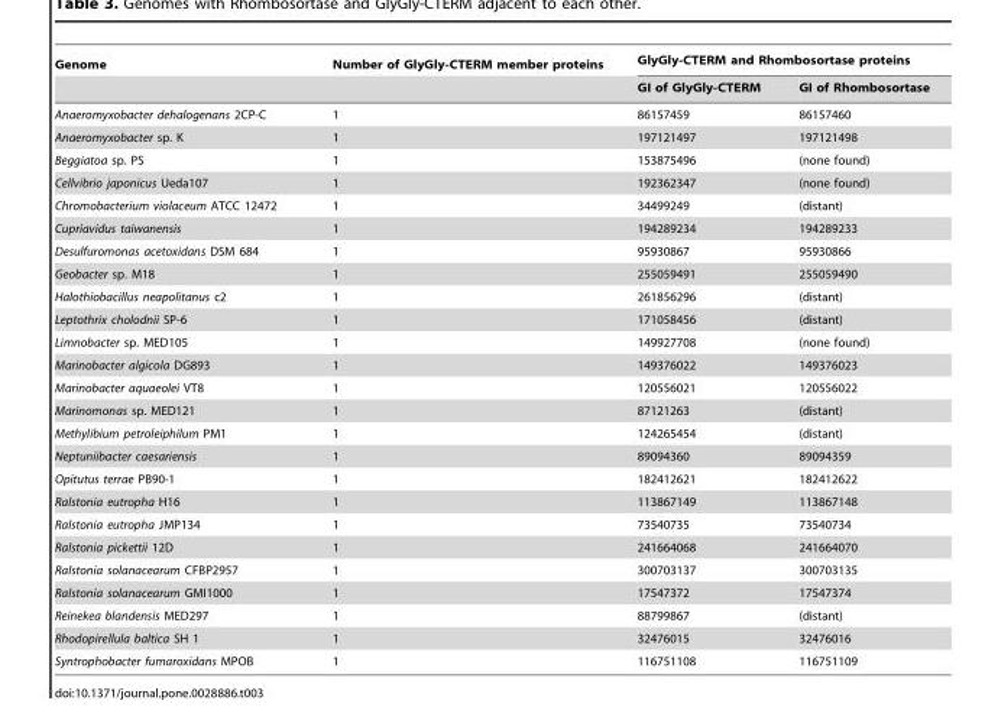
<table><thead><tr><td rowspan="2">Genome</td><td rowspan="2">Number of GlyGly-CTERM member proteins</td><td colspan="2">GlyGly-CTERM and Rhombosortase proteins</td></tr><tr><td>GI of GlyGly-CTERM</td><td>GI of Rhombosortase</td></tr></thead><tbody><tr><td>Anaeromyxobacter dehalogenans 2CP-C</td><td>1</td><td>86157459</td><td>86157460</td></tr><tr><td>Anaeromyxobacter sp. K</td><td>1</td><td>197121497</td><td>197121498</td></tr><tr><td>Beggiatoa sp. PS</td><td>1</td><td>153875496</td><td>(none found)</td></tr><tr><td>Cellvibrio japonicus Ueda107</td><td>1</td><td>192362347</td><td>(none found)</td></tr><tr><td>Chromobacterium violaceum ATCC 12472</td><td>1</td><td>34499249</td><td>(distant)</td></tr><tr><td>Cupriavidus taiwanensis</td><td>1</td><td>194289234</td><td>194289233</td></tr><tr><td>Desulfuromonas acetoxidans DSM 684</td><td>1</td><td>95930867</td><td>95930866</td></tr><tr><td>Geobacter sp. M18</td><td>1</td><td>255059491</td><td>255059490</td></tr><tr><td>Halothiobacillus neapolitanus c2</td><td>1</td><td>261856296</td><td>(distant)</td></tr><tr><td>Leptothrix cholodnii SP-6</td><td>1</td><td>171058456</td><td>(distant)</td></tr><tr><td>Limnobacter sp. MED105</td><td>1</td><td>149927708</td><td>(none found)</td></tr><tr><td>Marinobacter algicola DG893</td><td>1</td><td>149376022</td><td>149376023</td></tr><tr><td>Marinobacter aquaeolei VT8</td><td>1</td><td>120556021</td><td>120556022</td></tr><tr><td>Marinomonas sp. MED121</td><td>1</td><td>87121263</td><td>(distant)</td></tr><tr><td>Methylibium petroleiphilum PM1</td><td>1</td><td>124265454</td><td>(distant)</td></tr><tr><td>Neptuniibacter caesariensis</td><td>1</td><td>89094360</td><td>89094359</td></tr><tr><td>Opitutus terrae PB90-1</td><td>1</td><td>182412621</td><td>182412622</td></tr><tr><td>Ralstonia eutropha H16</td><td>1</td><td>113867149</td><td>113867148</td></tr><tr><td>Ralstonia eutropha JMP134</td><td>1</td><td>73540735</td><td>73540734</td></tr><tr><td>Ralstonia pickettii 12D</td><td>1</td><td>241664068</td><td>241664070</td></tr><tr><td>Ralstonia solanacearum CFBP2957</td><td>1</td><td>300703137</td><td>300703135</td></tr><tr><td>Ralstonia solanacearum GMI1000</td><td>1</td><td>17547372</td><td>17547374</td></tr><tr><td>Reinekea blandensis MED297</td><td>1</td><td>88799867</td><td>(distant)</td></tr><tr><td>Rhodopirellula baltica SH 1</td><td>1</td><td>32476015</td><td>32476016</td></tr><tr><td>Syntrophobacter fumaroxidans MPOB</td><td>1</td><td>116751108</td><td>116751109</td></tr></tbody></table>